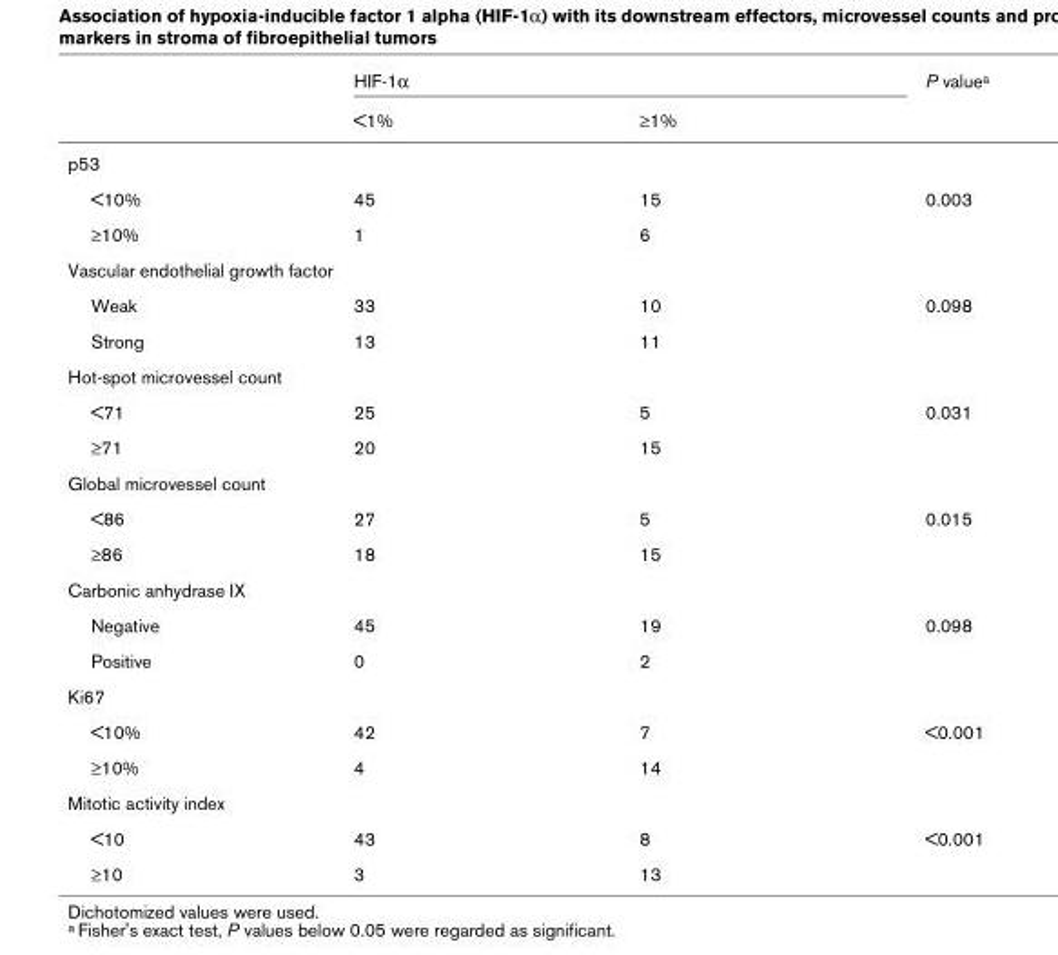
<table><thead><tr><td rowspan="2"></td><td colspan="2">HIF-1α</td><td rowspan="2">P valuea</td></tr><tr><td>&lt;1%</td><td>≥1%</td></tr></thead><tbody><tr><td colspan="4">p53</td></tr><tr><td>&lt;10%</td><td>45</td><td>15</td><td>0.003</td></tr><tr><td>≥10%</td><td>1</td><td>6</td><td></td></tr><tr><td colspan="4">Vascular endothelial growth factor</td></tr><tr><td>Weak</td><td>33</td><td>10</td><td>0.098</td></tr><tr><td>Strong</td><td>13</td><td>11</td><td></td></tr><tr><td colspan="4">Hot-spot microvessel count</td></tr><tr><td>&lt;71</td><td>25</td><td>5</td><td>0.031</td></tr><tr><td>≥71</td><td>20</td><td>15</td><td></td></tr><tr><td colspan="4">Global microvessel count</td></tr><tr><td>&lt;86</td><td>27</td><td>5</td><td>0.015</td></tr><tr><td>≥86</td><td>18</td><td>15</td><td></td></tr><tr><td colspan="4">Carbonic anhydrase IX</td></tr><tr><td>Negative</td><td>45</td><td>19</td><td>0.098</td></tr><tr><td>Positive</td><td>0</td><td>2</td><td></td></tr><tr><td colspan="4">Ki67</td></tr><tr><td>&lt;10%</td><td>42</td><td>7</td><td>&lt;0.001</td></tr><tr><td>≥10%</td><td>4</td><td>14</td><td></td></tr><tr><td colspan="4">Mitotic activity index</td></tr><tr><td>&lt;10</td><td>43</td><td>8</td><td>&lt;0.001</td></tr><tr><td>≥10</td><td>3</td><td>13</td><td></td></tr></tbody></table>